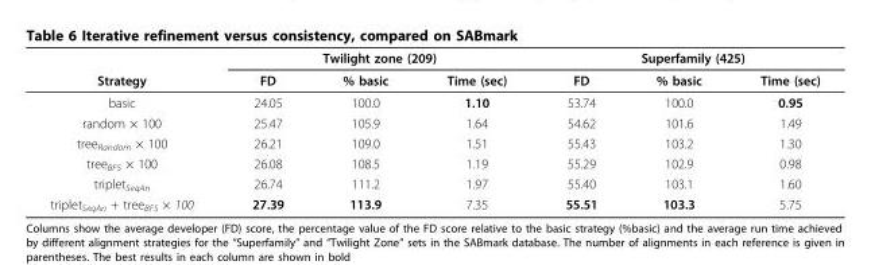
<table><thead><tr><td rowspan="2">Strategy</td><td colspan="3">Twilight zone (209)</td><td colspan="3">Superfamily (425)</td></tr><tr><td>FD</td><td>% basic</td><td>Time (sec)</td><td>FD</td><td>% basic</td><td>Time (sec)</td></tr></thead><tbody><tr><td>basic</td><td>24.05</td><td>100.0</td><td>1.10</td><td>53.74</td><td>100.0</td><td>0.95</td></tr><tr><td>random × 100</td><td>25.47</td><td>105.9</td><td>1.64</td><td>54.62</td><td>101.6</td><td>1.49</td></tr><tr><td>tree<sub>Random</sub> × 100</td><td>26.21</td><td>109.0</td><td>1.51</td><td>55.43</td><td>103.2</td><td>1.30</td></tr><tr><td>tree<sub>BFS</sub> × 100</td><td>26.08</td><td>108.5</td><td>1.19</td><td>55.29</td><td>102.9</td><td>0.98</td></tr><tr><td>triplet<sub>SeqAn</sub></td><td>26.74</td><td>111.2</td><td>1.97</td><td>55.40</td><td>103.1</td><td>1.60</td></tr><tr><td>triplet<sub>SeqAn</sub> + tree<sub>BFS</sub> × 100</td><td>27.39</td><td>113.9</td><td>7.35</td><td>55.51</td><td>103.3</td><td>5.75</td></tr></tbody></table>